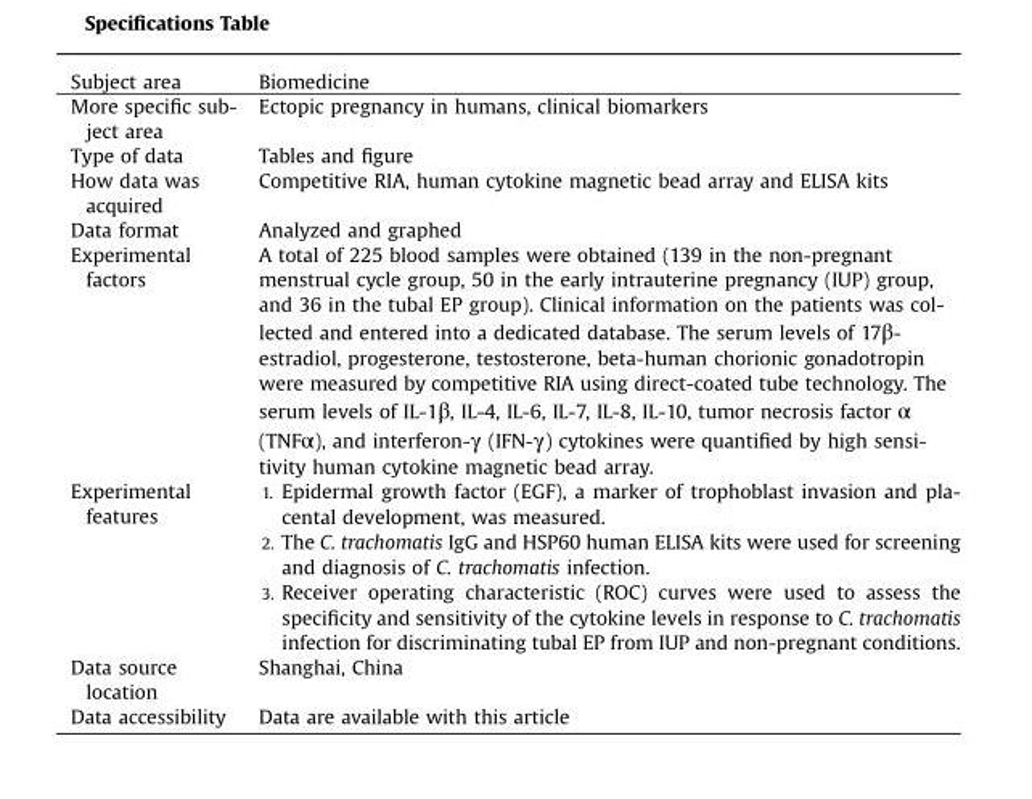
<table><tbody><tr><td>Subject area</td><td>Biomedicine</td></tr><tr><td>More specific sub- ject area</td><td>Ectopic pregnancy in humans, clinical biomarkers</td></tr><tr><td>Type of data</td><td>Tables and figure</td></tr><tr><td>How data was acquired</td><td>Competitive RIA, human cytokine magnetic bead array and ELISA kits</td></tr><tr><td>Data format</td><td>Analyzed and graphed</td></tr><tr><td>Experimental factors</td><td>A total of 225 blood samples were obtained (139 in the non-pregnant menstrual cycle group, 50 in the early intrauterine pregnancy (IUP) group, and 36 in the tubal EP group). Clinical information on the patients was col- lected and entered into a dedicated database. The serum levels of 17β- estradiol, progesterone, testosterone, beta-human chorionic gonadotropin were measured by competitive RIA using direct-coated tube technology. The serum levels of IL-1β, IL-4, IL-6, IL-7, IL-8, IL-10, tumor necrosis factor α (TNFα), and interferon-γ (IFN-γ) cytokines were quantified by high sensi- tivity human cytokine magnetic bead array.</td></tr><tr><td>Experimental features</td><td>1. Epidermal growth factor (EGF), a marker of trophoblast invasion and pla- cental development, was measured. 2. The C. trachomatis IgG and HSP60 human ELISA kits were used for screening and diagnosis of C. trachomatis infection. 3. Receiver operating characteristic (ROC) curves were used to assess the specificity and sensitivity of the cytokine levels in response to C. trachomatis infection for discriminating tubal EP from IUP and non-pregnant conditions.</td></tr><tr><td>Data source location</td><td>Shanghai, China</td></tr><tr><td>Data accessibility</td><td>Data are available with this article</td></tr></tbody></table>